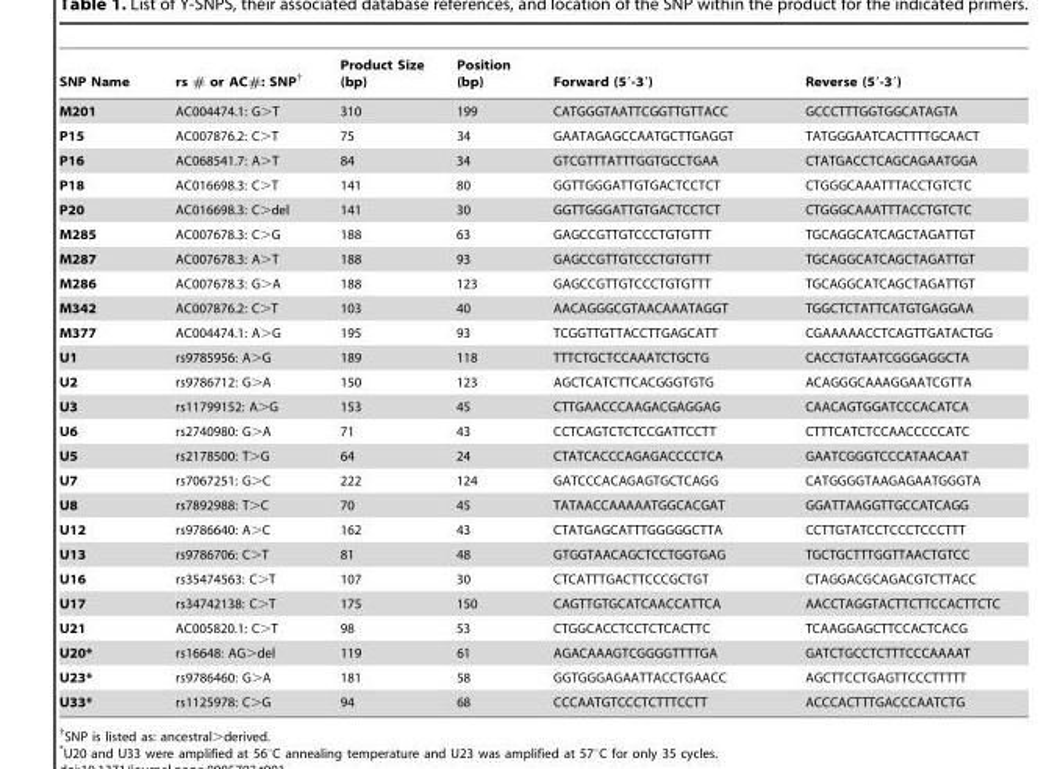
<table><thead><tr><td>SNP Name</td><td>rs # or AC#: SNP†</td><td>Product Size (bp)</td><td>Position (bp)</td><td>Forward (5′-3′)</td><td>Reverse (5′-3′)</td></tr></thead><tbody><tr><td>M201</td><td>AC004474.1: G&gt;T</td><td>310</td><td>199</td><td>CATGGGTAATTCGGTTGTTACC</td><td>GCCCTTTGGTGGCATAGTA</td></tr><tr><td>P15</td><td>AC007876.2: C&gt;T</td><td>75</td><td>34</td><td>GAATAGAGCCAATGCTTGAGGT</td><td>TATGGGAATCACTTTTGCAACT</td></tr><tr><td>P16</td><td>AC068541.7: A&gt;T</td><td>84</td><td>34</td><td>GTCGTTTATTTGGTGCCTGAA</td><td>CTATGACCTCAGCAGAATGGA</td></tr><tr><td>P18</td><td>AC016698.3: C&gt;T</td><td>141</td><td>80</td><td>GGTTGGGATTGTGACTCCTCT</td><td>CTGGGCAAATTTACCTGTCTC</td></tr><tr><td>P20</td><td>AC016698.3: C&gt;del</td><td>141</td><td>30</td><td>GGTTGGGATTGTGACTCCTCT</td><td>CTGGGCAAATTTACCTGTCTC</td></tr><tr><td>M285</td><td>AC007678.3: C&gt;G</td><td>188</td><td>63</td><td>GAGCCGTTGTCCCTGTGTTT</td><td>TGCAGGCATCAGCTAGATTGT</td></tr><tr><td>M287</td><td>AC007678.3: A&gt;T</td><td>188</td><td>93</td><td>GAGCCGTTGTCCCTGTGTTT</td><td>TGCAGGCATCAGCTAGATTGT</td></tr><tr><td>M286</td><td>AC007678.3: G&gt;A</td><td>188</td><td>123</td><td>GAGCCGTTGTCCCTGTGTTT</td><td>TGCAGGCATCAGCTAGATTGT</td></tr><tr><td>M342</td><td>AC007876.2: C&gt;T</td><td>103</td><td>40</td><td>AACAGGGCGTAACAAATAGGT</td><td>TGGCTCTATTCATGTGAGGAA</td></tr><tr><td>M377</td><td>AC004474.1: A&gt;G</td><td>195</td><td>93</td><td>TCGGTTGTTACCTTGAGCATT</td><td>CGAAAAACCTCAGTTGATACTGG</td></tr><tr><td>U1</td><td>rs9785956: A&gt;G</td><td>189</td><td>118</td><td>TTTCTGCTCCAAATCTGCTG</td><td>CACCTGTAATCGGGAGGCTA</td></tr><tr><td>U2</td><td>rs9786712: G&gt;A</td><td>150</td><td>123</td><td>AGCTCATCTTCACGGGTGTG</td><td>ACAGGGCAAAGGAATCGTTA</td></tr><tr><td>U3</td><td>rs11799152: A&gt;G</td><td>153</td><td>45</td><td>CTTGAACCCAAGACGAGGAG</td><td>CAACAGTGGATCCCACATCA</td></tr><tr><td>U6</td><td>rs2740980: G&gt;A</td><td>71</td><td>43</td><td>CCTCAGTCTCTCCGATTCCTT</td><td>CTTTCATCTCCAACCCCCATC</td></tr><tr><td>U5</td><td>rs2178500: T&gt;G</td><td>64</td><td>24</td><td>CTATCACCCAGAGACCCCTCA</td><td>GAATCGGGTCCCATAACAAT</td></tr><tr><td>U7</td><td>rs7067251: G&gt;C</td><td>222</td><td>124</td><td>GATCCCACAGAGTGCTCAGG</td><td>CATGGGGTAAGAGAATGGGTA</td></tr><tr><td>U8</td><td>rs7892988: T&gt;C</td><td>70</td><td>45</td><td>TATAACCAAAAATGGCACGAT</td><td>GGATTAAGGTTGCCATCAGG</td></tr><tr><td>U12</td><td>rs9786640: A&gt;C</td><td>162</td><td>43</td><td>CTATGAGCATTTGGGGGCTTA</td><td>CCTTGTATCCTCCCTCCCTTT</td></tr><tr><td>U13</td><td>rs9786706: C&gt;T</td><td>81</td><td>48</td><td>GTGGTAACAGCTCCTGGTGAG</td><td>TGCTGCTTTGGTTAACTGTCC</td></tr><tr><td>U16</td><td>rs35474563: C&gt;T</td><td>107</td><td>30</td><td>CTCATTTGACTTCCCGCTGT</td><td>CTAGGACGCAGACGTCTTACC</td></tr><tr><td>U17</td><td>rs34742138: C&gt;T</td><td>175</td><td>150</td><td>CAGTTGTGCATCAACCATTCA</td><td>AACCTAGGTACTTCTTCCACTTCTC</td></tr><tr><td>U21</td><td>AC005820.1: C&gt;T</td><td>98</td><td>53</td><td>CTGGCACCTCCTCTCACTTC</td><td>TCAAGGAGCTTCCACTCACG</td></tr><tr><td>U20*</td><td>rs16648: AG&gt;del</td><td>119</td><td>61</td><td>AGACAAAGTCGGGGTTTTGA</td><td>GATCTGCCTCTTTCCCAAAAT</td></tr><tr><td>U23*</td><td>rs9786460: G&gt;A</td><td>181</td><td>58</td><td>GGTGGGAGAATTACCTGAACC</td><td>AGCTTCCTGAGTTCCCTTTTT</td></tr><tr><td>U33*</td><td>rs1125978: C&gt;G</td><td>94</td><td>68</td><td>CCCAATGTCCCTCTTTCCTT</td><td>ACCCACTTTGACCCAATCTG</td></tr></tbody></table>